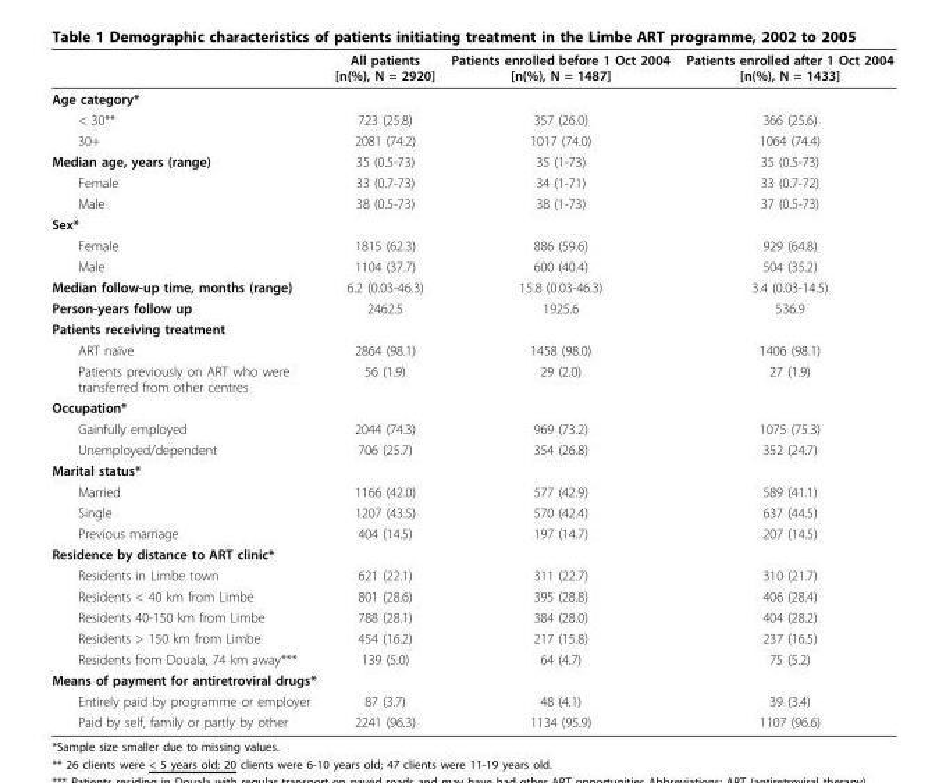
<table><thead><tr><td></td><td>All patients [n(%), N = 2920]</td><td>Patients enrolled before 1 Oct 2004 [n(%), N = 1487]</td><td>Patients enrolled after 1 Oct 2004 [n(%), N = 1433]</td></tr></thead><tbody><tr><td colspan="4">Age category*</td></tr><tr><td>&lt; 30**</td><td>723 (25.8)</td><td>357 (26.0)</td><td>366 (25.6)</td></tr><tr><td>30+</td><td>2081 (74.2)</td><td>1017 (74.0)</td><td>1064 (74.4)</td></tr><tr><td>Median age, years (range)</td><td>35 (0.5-73)</td><td>35 (1-73)</td><td>35 (0.5-73)</td></tr><tr><td>Female</td><td>33 (0.7-73)</td><td>34 (1-71)</td><td>33 (0.7-72)</td></tr><tr><td>Male</td><td>38 (0.5-73)</td><td>38 (1-73)</td><td>37 (0.5-73)</td></tr><tr><td colspan="4">Sex*</td></tr><tr><td>Female</td><td>1815 (62.3)</td><td>886 (59.6)</td><td>929 (64.8)</td></tr><tr><td>Male</td><td>1104 (37.7)</td><td>600 (40.4)</td><td>504 (35.2)</td></tr><tr><td>Median follow-up time, months (range)</td><td>6.2 (0.03-46.3)</td><td>15.8 (0.03-46.3)</td><td>3.4 (0.03-14.5)</td></tr><tr><td>Person-years follow up</td><td>2462.5</td><td>1925.6</td><td>536.9</td></tr><tr><td colspan="4">Patients receiving treatment</td></tr><tr><td>ART naïve</td><td>2864 (98.1)</td><td>1458 (98.0)</td><td>1406 (98.1)</td></tr><tr><td>Patients previously on ART who were transferred from other centres</td><td>56 (1.9)</td><td>29 (2.0)</td><td>27 (1.9)</td></tr><tr><td colspan="4">Occupation*</td></tr><tr><td>Gainfully employed</td><td>2044 (74.3)</td><td>969 (73.2)</td><td>1075 (75.3)</td></tr><tr><td>Unemployed/dependent</td><td>706 (25.7)</td><td>354 (26.8)</td><td>352 (24.7)</td></tr><tr><td colspan="4">Marital status*</td></tr><tr><td>Married</td><td>1166 (42.0)</td><td>577 (42.9)</td><td>589 (41.1)</td></tr><tr><td>Single</td><td>1207 (43.5)</td><td>570 (42.4)</td><td>637 (44.5)</td></tr><tr><td>Previous marriage</td><td>404 (14.5)</td><td>197 (14.7)</td><td>207 (14.5)</td></tr><tr><td colspan="4">Residence by distance to ART clinic*</td></tr><tr><td>Residents in Limbe town</td><td>621 (22.1)</td><td>311 (22.7)</td><td>310 (21.7)</td></tr><tr><td>Residents &lt; 40 km from Limbe</td><td>801 (28.6)</td><td>395 (28.8)</td><td>406 (28.4)</td></tr><tr><td>Residents 40-150 km from Limbe</td><td>788 (28.1)</td><td>384 (28.0)</td><td>404 (28.2)</td></tr><tr><td>Residents &gt; 150 km from Limbe</td><td>454 (16.2)</td><td>217 (15.8)</td><td>237 (16.5)</td></tr><tr><td>Residents from Douala, 74 km away***</td><td>139 (5.0)</td><td>64 (4.7)</td><td>75 (5.2)</td></tr><tr><td colspan="4">Means of payment for antiretroviral drugs*</td></tr><tr><td>Entirely paid by programme or employer</td><td>87 (3.7)</td><td>48 (4.1)</td><td>39 (3.4)</td></tr><tr><td>Paid by self, family or partly by other</td><td>2241 (96.3)</td><td>1134 (95.9)</td><td>1107 (96.6)</td></tr></tbody></table>